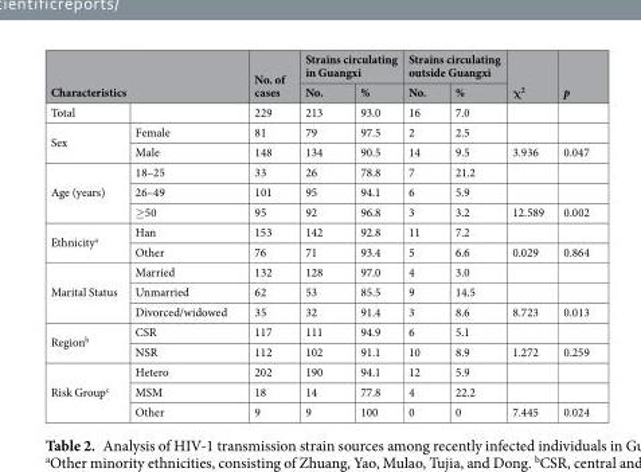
<table><thead><tr><td rowspan="2" colspan="2">Characteristics</td><td rowspan="3">No. of cases 229</td><td colspan="2">Strains circulating in Guangxi</td><td colspan="2">Strains circulating outside Guangxi</td><td rowspan="3">χ<sup>2</sup></td><td rowspan="3">p</td></tr><tr><td rowspan="2">No. 213</td><td rowspan="2">% 93.0</td><td rowspan="2">No. 16</td><td rowspan="2">% 7.0</td></tr><tr><td>Total</td><td></td></tr></thead><tbody><tr><td rowspan="2">Sex</td><td>Female</td><td>81</td><td>79</td><td>97.5</td><td>2</td><td>2.5</td><td></td><td></td></tr><tr><td>Male</td><td>148</td><td>134</td><td>90.5</td><td>14</td><td>9.5</td><td>3.936</td><td>0.047</td></tr><tr><td rowspan="3">Age (years)</td><td>18–25</td><td>33</td><td>26</td><td>78.8</td><td>7</td><td>21.2</td><td></td><td></td></tr><tr><td>26–49</td><td>101</td><td>95</td><td>94.1</td><td>6</td><td>5.9</td><td></td><td></td></tr><tr><td>≥50</td><td>95</td><td>92</td><td>96.8</td><td>3</td><td>3.2</td><td>12.589</td><td>0.002</td></tr><tr><td rowspan="2">Ethnicity<sup>a</sup></td><td>Han</td><td>153</td><td>142</td><td>92.8</td><td>11</td><td>7.2</td><td></td><td></td></tr><tr><td>Other</td><td>76</td><td>71</td><td>93.4</td><td>5</td><td>6.6</td><td>0.029</td><td>0.864</td></tr><tr><td rowspan="3">Marital Status</td><td>Married</td><td>132</td><td>128</td><td>97.0</td><td>4</td><td>3.0</td><td></td><td></td></tr><tr><td>Unmarried</td><td>62</td><td>53</td><td>85.5</td><td>9</td><td>14.5</td><td></td><td></td></tr><tr><td>Divorced/widowed</td><td>35</td><td>32</td><td>91.4</td><td>3</td><td>8.6</td><td>8.723</td><td>0.013</td></tr><tr><td rowspan="2">Region<sup>b</sup></td><td>CSR</td><td>117</td><td>111</td><td>94.9</td><td>6</td><td>5.1</td><td></td><td></td></tr><tr><td>NSR</td><td>112</td><td>102</td><td>91.1</td><td>10</td><td>8.9</td><td>1.272</td><td>0.259</td></tr><tr><td rowspan="3">Risk Group<sup>c</sup></td><td>Hetero</td><td>202</td><td>190</td><td>94.1</td><td>12</td><td>5.9</td><td></td><td></td></tr><tr><td>MSM</td><td>18</td><td>14</td><td>77.8</td><td>4</td><td>22.2</td><td></td><td></td></tr><tr><td>Other</td><td>9</td><td>9</td><td>100</td><td>0</td><td>0</td><td>7.445</td><td>0.024</td></tr></tbody></table>